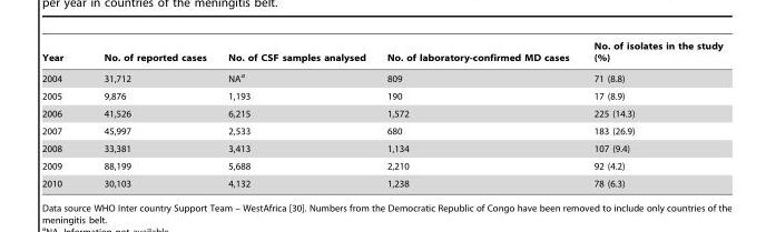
<table><thead><tr><td>Year</td><td>No. of reported cases</td><td>No. of CSF samples analysed</td><td>No. of laboratory-confirmed MD cases</td><td>No. of isolates in the study (%)</td></tr></thead><tbody><tr><td>2004</td><td>31,712</td><td>NA<sup>a</sup></td><td>809</td><td>71 (8.8)</td></tr><tr><td>2005</td><td>9,876</td><td>1,193</td><td>190</td><td>17 (8.9)</td></tr><tr><td>2006</td><td>41,526</td><td>6,215</td><td>1,572</td><td>225 (14.3)</td></tr><tr><td>2007</td><td>45,997</td><td>2,533</td><td>680</td><td>183 (26.9)</td></tr><tr><td>2008</td><td>33,381</td><td>3,413</td><td>1,134</td><td>107 (9.4)</td></tr><tr><td>2009</td><td>88,199</td><td>5,688</td><td>2,210</td><td>92 (4.2)</td></tr><tr><td>2010</td><td>30,103</td><td>4,132</td><td>1,238</td><td>78 (6.3)</td></tr></tbody></table>